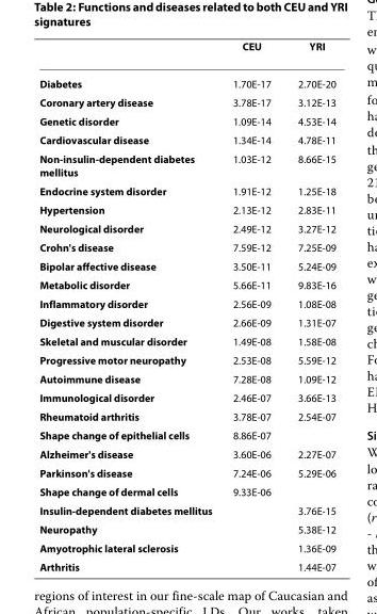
<table><thead><tr><td></td><td>CEU</td><td>YRI</td></tr></thead><tbody><tr><td>Diabetes</td><td>1.70E-17</td><td>2.70E-20</td></tr><tr><td>Coronary artery disease</td><td>3.78E-17</td><td>3.12E-13</td></tr><tr><td>Genetic disorder</td><td>1.09E-14</td><td>4.53E-14</td></tr><tr><td>Cardiovascular disease</td><td>1.34E-14</td><td>4.78E-11</td></tr><tr><td>Non-insulin-dependent diabetes mellitus</td><td>1.03E-12</td><td>8.66E-15</td></tr><tr><td>Endocrine system disorder</td><td>1.91E-12</td><td>1.25E-18</td></tr><tr><td>Hypertension</td><td>2.13E-12</td><td>2.83E-11</td></tr><tr><td>Neurological disorder</td><td>2.49E-12</td><td>3.27E-12</td></tr><tr><td>Crohn&#x27;s disease</td><td>7.59E-12</td><td>7.25E-09</td></tr><tr><td>Bipolar affective disease</td><td>3.50E-11</td><td>5.24E-09</td></tr><tr><td>Metabolic disorder</td><td>5.66E-11</td><td>9.83E-16</td></tr><tr><td>Inflammatory disorder</td><td>2.56E-09</td><td>1.08E-08</td></tr><tr><td>Digestive system disorder</td><td>2.66E-09</td><td>1.31E-07</td></tr><tr><td>Skeletal and muscular disorder</td><td>1.49E-08</td><td>1.58E-08</td></tr><tr><td>Progressive motor neuropathy</td><td>2.53E-08</td><td>5.59E-12</td></tr><tr><td>Autoimmune disease</td><td>7.28E-08</td><td>1.09E-12</td></tr><tr><td>Immunological disorder</td><td>2.46E-07</td><td>3.66E-13</td></tr><tr><td>Rheumatoid arthritis</td><td>3.78E-07</td><td>2.54E-07</td></tr><tr><td>Shape change of epithelial cells</td><td>8.86E-07</td><td></td></tr><tr><td>Alzheimer&#x27;s disease</td><td>3.60E-06</td><td>2.27E-07</td></tr><tr><td>Parkinson&#x27;s disease</td><td>7.24E-06</td><td>5.29E-06</td></tr><tr><td>Shape change of dermal cells</td><td>9.33E-06</td><td></td></tr><tr><td>Insulin-dependent diabetes mellitus</td><td></td><td>3.76E-15</td></tr><tr><td>Neuropathy</td><td></td><td>5.38E-12</td></tr><tr><td>Amyotrophic lateral sclerosis</td><td></td><td>1.36E-09</td></tr><tr><td>Arthritis</td><td></td><td>1.44E-07</td></tr></tbody></table>